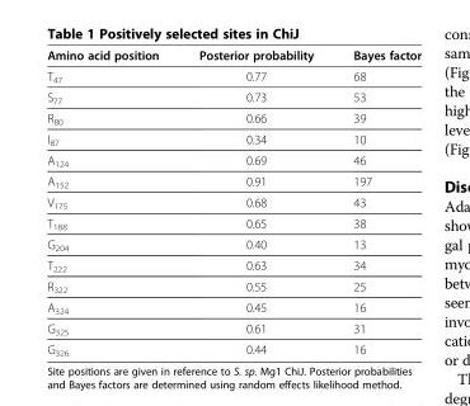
<table><thead><tr><td>Amino acid position</td><td>Posterior probability</td><td>Bayes factor</td></tr></thead><tbody><tr><td>T<sub>47</sub></td><td>0.77</td><td>68</td></tr><tr><td>S<sub>77</sub></td><td>0.73</td><td>53</td></tr><tr><td>R<sub>80</sub></td><td>0.66</td><td>39</td></tr><tr><td>I<sub>87</sub></td><td>0.34</td><td>10</td></tr><tr><td>A<sub>124</sub></td><td>0.69</td><td>46</td></tr><tr><td>A<sub>152</sub></td><td>0.91</td><td>197</td></tr><tr><td>V<sub>175</sub></td><td>0.68</td><td>43</td></tr><tr><td>T<sub>188</sub></td><td>0.65</td><td>38</td></tr><tr><td>G<sub>204</sub></td><td>0.40</td><td>13</td></tr><tr><td>T<sub>222</sub></td><td>0.63</td><td>34</td></tr><tr><td>R<sub>322</sub></td><td>0.55</td><td>25</td></tr><tr><td>A<sub>324</sub></td><td>0.45</td><td>16</td></tr><tr><td>G<sub>325</sub></td><td>0.61</td><td>31</td></tr><tr><td>G<sub>326</sub></td><td>0.44</td><td>16</td></tr></tbody></table>